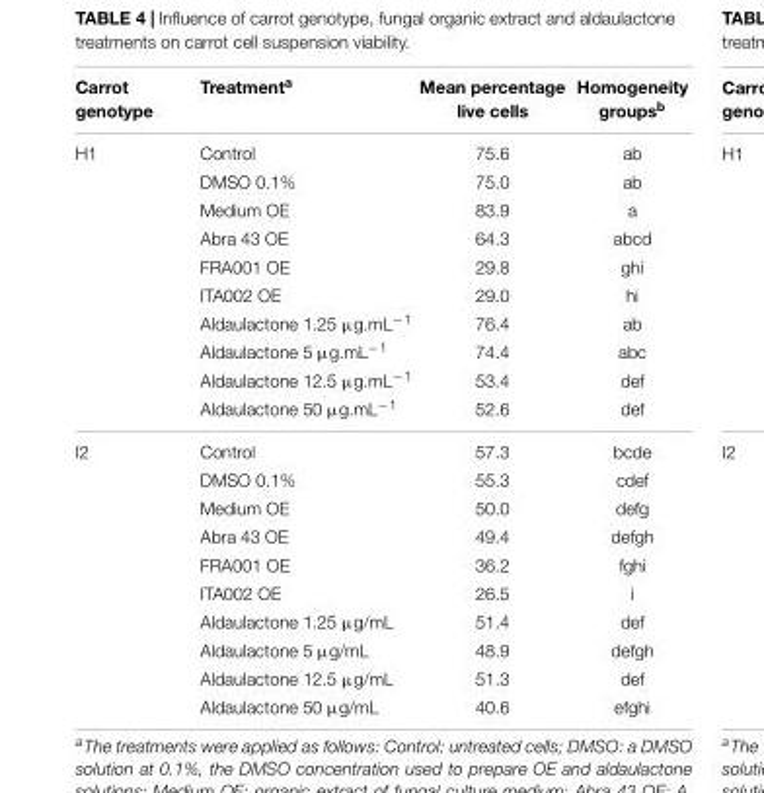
<table><thead><tr><td>Carrot genotype</td><td>Treatment<sup>a</sup></td><td>Mean percentage live cells</td><td>Homogeneity groups<sup>b</sup></td></tr></thead><tbody><tr><td rowspan="10">H1</td><td>Control</td><td>75.6</td><td>ab</td></tr><tr><td>DMSO 0.1%</td><td>75.0</td><td>ab</td></tr><tr><td>Medium OE</td><td>83.9</td><td>a</td></tr><tr><td>Abra 43 OE</td><td>64.3</td><td>abcd</td></tr><tr><td>FRA001 OE</td><td>29.8</td><td>ghi</td></tr><tr><td>ITA002 OE</td><td>29.0</td><td>hi</td></tr><tr><td>Aldaulactone 1.25 µg.mL<sup>−1</sup></td><td>76.4</td><td>ab</td></tr><tr><td>Aldaulactone 5 µg.mL<sup>−1</sup></td><td>74.4</td><td>abc</td></tr><tr><td>Aldaulactone 12.5 µg.mL<sup>−1</sup></td><td>53.4</td><td>def</td></tr><tr><td>Aldaulactone 50 µg.mL<sup>−1</sup></td><td>52.6</td><td>def</td></tr><tr><td rowspan="10">I2</td><td>Control</td><td>57.3</td><td>bcde</td></tr><tr><td>DMSO 0.1%</td><td>55.3</td><td>cdef</td></tr><tr><td>Medium OE</td><td>50.0</td><td>defg</td></tr><tr><td>Abra 43 OE</td><td>49.4</td><td>defgh</td></tr><tr><td>FRA001 OE</td><td>36.2</td><td>fghi</td></tr><tr><td>ITA002 OE</td><td>26.5</td><td>i</td></tr><tr><td>Aldaulactone 1.25 µg/mL</td><td>51.4</td><td>def</td></tr><tr><td>Aldaulactone 5 µg/mL</td><td>48.9</td><td>defgh</td></tr><tr><td>Aldaulactone 12.5 µg/mL</td><td>51.3</td><td>def</td></tr><tr><td>Aldaulactone 50 µg/mL</td><td>40.6</td><td>efghi</td></tr></tbody></table>